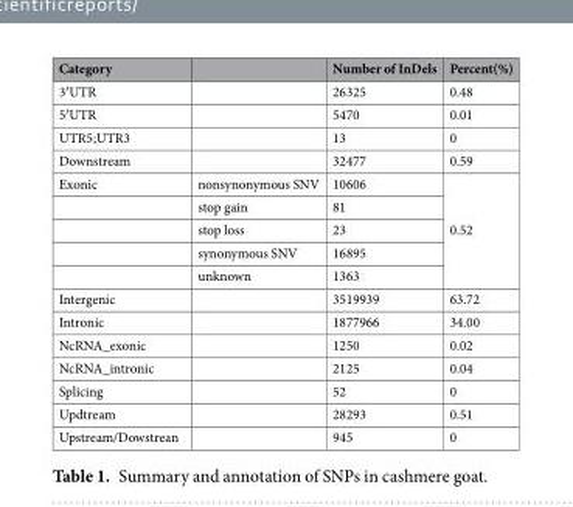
<table><thead><tr><td>Category</td><td></td><td>Number of InDels</td><td>Percent(%)</td></tr></thead><tbody><tr><td>3′UTR</td><td></td><td>26325</td><td>0.48</td></tr><tr><td>5′UTR</td><td></td><td>5470</td><td>0.01</td></tr><tr><td>UTR5;UTR3</td><td></td><td>13</td><td>0</td></tr><tr><td>Downstream</td><td></td><td>32477</td><td>0.59</td></tr><tr><td rowspan="5">Exonic</td><td>nonsynonymous SNV</td><td>10606</td><td rowspan="5">0.52</td></tr><tr><td>stop gain</td><td>81</td></tr><tr><td>stop loss</td><td>23</td></tr><tr><td>synonymous SNV</td><td>16895</td></tr><tr><td>unknown</td><td>1363</td></tr><tr><td>Intergenic</td><td></td><td>3519939</td><td>63.72</td></tr><tr><td>Intronic</td><td></td><td>1877966</td><td>34.00</td></tr><tr><td>NcRNA_exonic</td><td></td><td>1250</td><td>0.02</td></tr><tr><td>NcRNA_intronic</td><td></td><td>2125</td><td>0.04</td></tr><tr><td>Splicing</td><td></td><td>52</td><td>0</td></tr><tr><td>Updtream</td><td></td><td>28293</td><td>0.51</td></tr><tr><td>Upstream/Dowstrean</td><td></td><td>945</td><td>0</td></tr></tbody></table>